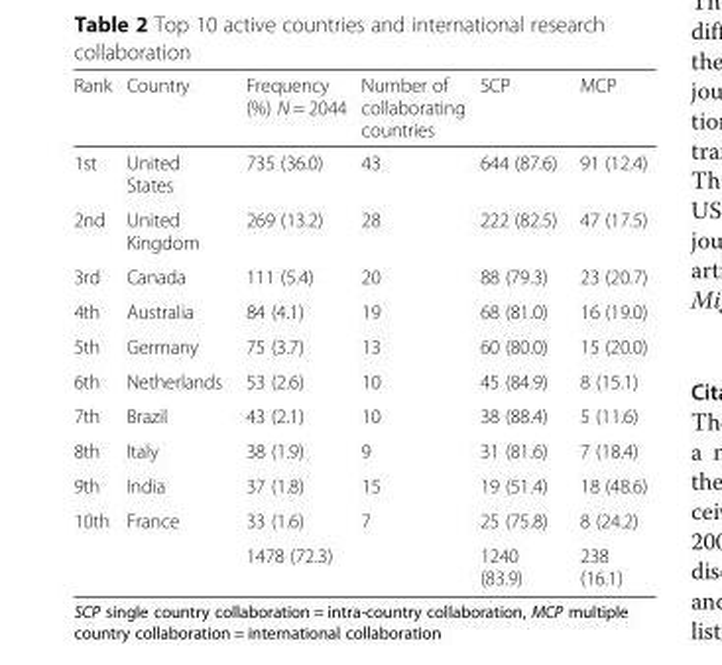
<table><thead><tr><td>Rank</td><td>Country</td><td>Frequency (%) N = 2044</td><td>Number of collaborating countries</td><td>SCP</td><td>MCP</td></tr></thead><tbody><tr><td>1st</td><td>United States</td><td>735 (36.0)</td><td>43</td><td>644 (87.6)</td><td>91 (12.4)</td></tr><tr><td>2nd</td><td>United Kingdom</td><td>269 (13.2)</td><td>28</td><td>222 (82.5)</td><td>47 (17.5)</td></tr><tr><td>3rd</td><td>Canada</td><td>111 (5.4)</td><td>20</td><td>88 (79.3)</td><td>23 (20.7)</td></tr><tr><td>4th</td><td>Australia</td><td>84 (4.1)</td><td>19</td><td>68 (81.0)</td><td>16 (19.0)</td></tr><tr><td>5th</td><td>Germany</td><td>75 (3.7)</td><td>13</td><td>60 (80.0)</td><td>15 (20.0)</td></tr><tr><td>6th</td><td>Netherlands</td><td>53 (2.6)</td><td>10</td><td>45 (84.9)</td><td>8 (15.1)</td></tr><tr><td>7th</td><td>Brazil</td><td>43 (2.1)</td><td>10</td><td>38 (88.4)</td><td>5 (11.6)</td></tr><tr><td>8th</td><td>Italy</td><td>38 (1.9)</td><td>9</td><td>31 (81.6)</td><td>7 (18.4)</td></tr><tr><td>9th</td><td>India</td><td>37 (1.8)</td><td>15</td><td>19 (51.4)</td><td>18 (48.6)</td></tr><tr><td rowspan="2">10th</td><td>France</td><td>33 (1.6)</td><td>7</td><td>25 (75.8)</td><td>8 (24.2)</td></tr><tr><td></td><td>1478 (72.3)</td><td></td><td>1240 (83.9)</td><td>238 (16.1)</td></tr></tbody></table>